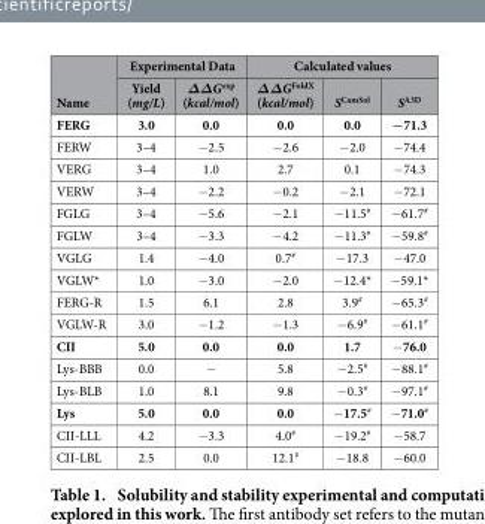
<table><thead><tr><td rowspan="2">Name</td><td colspan="2">Experimental Data</td><td colspan="3">Calculated values</td></tr><tr><td>Yield (mg/L)</td><td>ΔΔG<sup>exp</sup> (kcal/mol)</td><td>ΔΔG<sup>FoldX</sup> (kcal/mol)</td><td>S<sup>CamSol</sup></td><td>S<sup>A3D</sup></td></tr></thead><tbody><tr><td>FERG</td><td>3.0</td><td>0.0</td><td>0.0</td><td>0.0</td><td>−71.3</td></tr><tr><td>FERW</td><td>3–4</td><td>− 2.5</td><td>− 2.6</td><td>− 2.0</td><td>− 74.4</td></tr><tr><td>VERG</td><td>3–4</td><td>1.0</td><td>2.7</td><td>0.1</td><td>− 74.3</td></tr><tr><td>VERW</td><td>3–4</td><td>− 2.2</td><td>− 0.2</td><td>− 2.1</td><td>− 72.1</td></tr><tr><td>FGLG</td><td>3–4</td><td>− 5.6</td><td>− 2.1</td><td>− 11.5<sup>#</sup></td><td>− 61.7<sup>#</sup></td></tr><tr><td>FGLW</td><td>3–4</td><td>− 3.3</td><td>− 4.2</td><td>− 11.3<sup>#</sup></td><td>− 59.8<sup>#</sup></td></tr><tr><td>VGLG</td><td>1.4</td><td>− 4.0</td><td>0.7<sup>#</sup></td><td>− 17.3</td><td>− 47.0</td></tr><tr><td>VGLW*</td><td>1.0</td><td>− 3.0</td><td>− 2.0</td><td>− 12.4*</td><td>− 59.1*</td></tr><tr><td>FERG-R</td><td>1.5</td><td>6.1</td><td>2.8</td><td>3.9<sup>#</sup></td><td>− 65.3<sup>#</sup></td></tr><tr><td>VGLW-R</td><td>3.0</td><td>− 1.2</td><td>− 1.3</td><td>− 6.9<sup>#</sup></td><td>− 61.1<sup>#</sup></td></tr><tr><td>CII</td><td>5.0</td><td>0.0</td><td>0.0</td><td>1.7</td><td>− 76.0</td></tr><tr><td>Lys-BBB</td><td>0.0</td><td>−</td><td>5.8</td><td>− 2.5<sup>#</sup></td><td>− 88.1<sup>#</sup></td></tr><tr><td>Lys-BLB</td><td>1.0</td><td>8.1</td><td>9.8</td><td>− 0.3<sup>#</sup></td><td>− 97.1<sup>#</sup></td></tr><tr><td>Lys</td><td>5.0</td><td>0.0</td><td>0.0</td><td>− 17.5<sup>#</sup></td><td>− 71.0<sup>#</sup></td></tr><tr><td>CII-LLL</td><td>4.2</td><td>− 3.3</td><td>4.0<sup>#</sup></td><td>− 19.2<sup>#</sup></td><td>− 58.7</td></tr><tr><td>CII-LBL</td><td>2.5</td><td>0.0</td><td>12.1<sup>#</sup></td><td>− 18.8</td><td>− 60.0</td></tr></tbody></table>